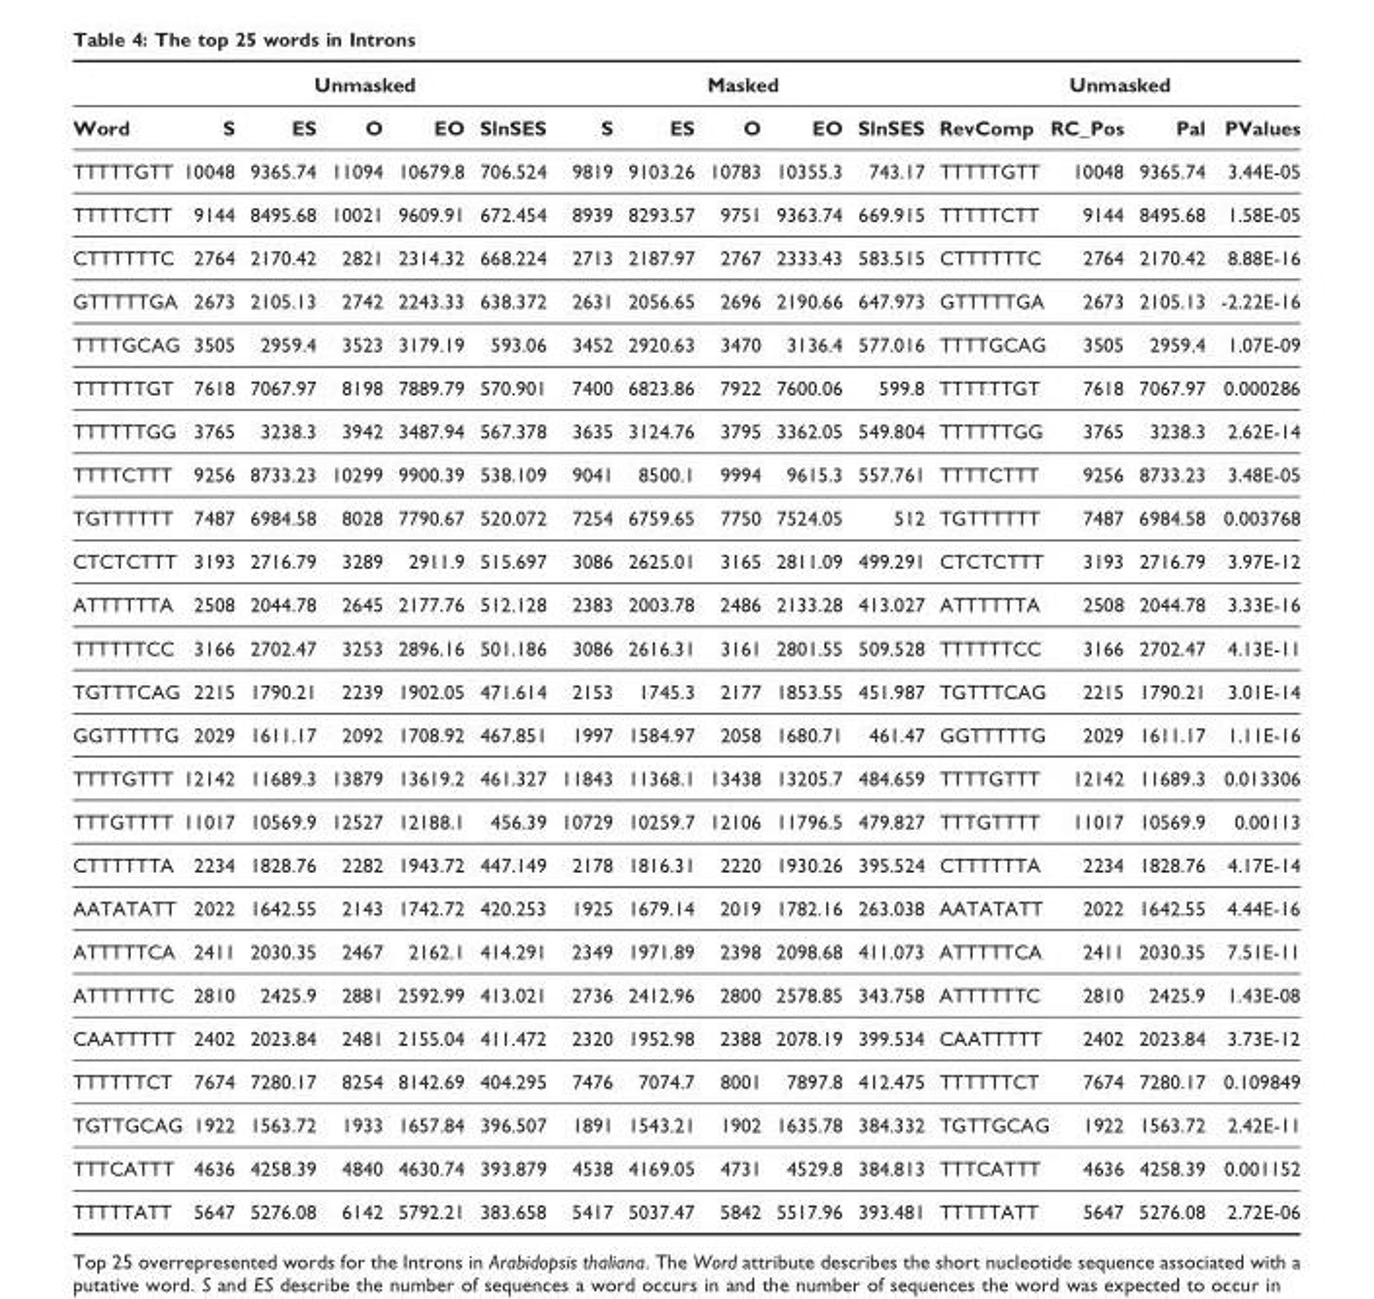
<table><thead><tr><td rowspan="2">Word</td><td colspan="5">Unmasked</td><td colspan="5">Masked</td><td colspan="4">Unmasked</td></tr><tr><td>S</td><td>ES</td><td>O</td><td>EO</td><td>SlnSES</td><td>S</td><td>ES</td><td>O</td><td>EO</td><td>SlnSES</td><td>RevComp</td><td>RC_Pos</td><td>Pal</td><td>PValues</td></tr></thead><tbody><tr><td>TTTTTGTT</td><td>10048</td><td>9365.74</td><td>11094</td><td>10679.8</td><td>706.524</td><td>9819</td><td>9103.26</td><td>10783</td><td>10355.3</td><td>743.17</td><td>TTTTTGTT</td><td>10048</td><td>9365.74</td><td>3.44E-05</td></tr><tr><td>TTTTTCTT</td><td>9144</td><td>8495.68</td><td>10021</td><td>9609.91</td><td>672.454</td><td>8939</td><td>8293.57</td><td>9751</td><td>9363.74</td><td>669.915</td><td>TTTTTCTT</td><td>9144</td><td>8495.68</td><td>1.58E-05</td></tr><tr><td>CTTTTTTC</td><td>2764</td><td>2170.42</td><td>2821</td><td>2314.32</td><td>668.224</td><td>2713</td><td>2187.97</td><td>2767</td><td>2333.43</td><td>583.515</td><td>CTTTTTTC</td><td>2764</td><td>2170.42</td><td>8.88E-16</td></tr><tr><td>GTTTTTGA</td><td>2673</td><td>2105.13</td><td>2742</td><td>2243.33</td><td>638.372</td><td>2631</td><td>2056.65</td><td>2696</td><td>2190.66</td><td>647.973</td><td>GTTTTTGA</td><td>2673</td><td>2105.13</td><td>-2.22E-16</td></tr><tr><td>TTTTGCAG</td><td>3505</td><td>2959.4</td><td>3523</td><td>3179.19</td><td>593.06</td><td>3452</td><td>2920.63</td><td>3470</td><td>3136.4</td><td>577.016</td><td>TTTTGCAG</td><td>3505</td><td>2959.4</td><td>1.07E-09</td></tr><tr><td>TTTTTTGT</td><td>7618</td><td>7067.97</td><td>8198</td><td>7889.79</td><td>570.901</td><td>7400</td><td>6823.86</td><td>7922</td><td>7600.06</td><td>599.8</td><td>TTTTTTGT</td><td>7618</td><td>7067.97</td><td>0.000286</td></tr><tr><td>TTTTTTGG</td><td>3765</td><td>3238.3</td><td>3942</td><td>3487.94</td><td>567.378</td><td>3635</td><td>3124.76</td><td>3795</td><td>3362.05</td><td>549.804</td><td>TTTTTTGG</td><td>3765</td><td>3238.3</td><td>2.62E-14</td></tr><tr><td>TTTTCTTT</td><td>9256</td><td>8733.23</td><td>10299</td><td>9900.39</td><td>538.109</td><td>9041</td><td>8500.1</td><td>9994</td><td>9615.3</td><td>557.761</td><td>TTTTCTTT</td><td>9256</td><td>8733.23</td><td>3.48E-05</td></tr><tr><td>TGTTTTTT</td><td>7487</td><td>6984.58</td><td>8028</td><td>7790.67</td><td>520.072</td><td>7254</td><td>6759.65</td><td>7750</td><td>7524.05</td><td>512</td><td>TGTTTTTT</td><td>7487</td><td>6984.58</td><td>0.003768</td></tr><tr><td>CTCTCTTT</td><td>3193</td><td>2716.79</td><td>3289</td><td>2911.9</td><td>515.697</td><td>3086</td><td>2625.01</td><td>3165</td><td>2811.09</td><td>499.291</td><td>CTCTCTTT</td><td>3193</td><td>2716.79</td><td>3.97E-12</td></tr><tr><td>ATTTTTTA</td><td>2508</td><td>2044.78</td><td>2645</td><td>2177.76</td><td>512.128</td><td>2383</td><td>2003.78</td><td>2486</td><td>2133.28</td><td>413.027</td><td>ATTTTTTA</td><td>2508</td><td>2044.78</td><td>3.33E-16</td></tr><tr><td>TTTTTTCC</td><td>3166</td><td>2702.47</td><td>3253</td><td>2896.16</td><td>501.186</td><td>3086</td><td>2616.31</td><td>3161</td><td>2801.55</td><td>509.528</td><td>TTTTTTCC</td><td>3166</td><td>2702.47</td><td>4.13E-11</td></tr><tr><td>TGTTTCAG</td><td>2215</td><td>1790.21</td><td>2239</td><td>1902.05</td><td>471.614</td><td>2153</td><td>1745.3</td><td>2177</td><td>1853.55</td><td>451.987</td><td>TGTTTCAG</td><td>2215</td><td>1790.21</td><td>3.01E-14</td></tr><tr><td>GGTTTTTG</td><td>2029</td><td>1611.17</td><td>2092</td><td>1708.92</td><td>467.851</td><td>1997</td><td>1584.97</td><td>2058</td><td>1680.71</td><td>461.47</td><td>GGTTTTTG</td><td>2029</td><td>1611.17</td><td>1.11E-16</td></tr><tr><td>TTTTGTTT</td><td>12142</td><td>11689.3</td><td>13879</td><td>13619.2</td><td>461.327</td><td>11843</td><td>11368.1</td><td>13438</td><td>13205.7</td><td>484.659</td><td>TTTTGTTT</td><td>12142</td><td>11689.3</td><td>0.013306</td></tr><tr><td>TTTGTTTT</td><td>11017</td><td>10569.9</td><td>12527</td><td>12188.1</td><td>456.39</td><td>10729</td><td>10259.7</td><td>12106</td><td>11796.5</td><td>479.827</td><td>TTTGTTTT</td><td>11017</td><td>10569.9</td><td>0.00113</td></tr><tr><td>CTTTTTTA</td><td>2234</td><td>1828.76</td><td>2282</td><td>1943.72</td><td>447.149</td><td>2178</td><td>1816.31</td><td>2220</td><td>1930.26</td><td>395.524</td><td>CTTTTTTA</td><td>2234</td><td>1828.76</td><td>4.17E-14</td></tr><tr><td>AATATATT</td><td>2022</td><td>1642.55</td><td>2143</td><td>1742.72</td><td>420.253</td><td>1925</td><td>1679.14</td><td>2019</td><td>1782.16</td><td>263.038</td><td>AATATATT</td><td>2022</td><td>1642.55</td><td>4.44E-16</td></tr><tr><td>ATTTTTCA</td><td>2411</td><td>2030.35</td><td>2467</td><td>2162.1</td><td>414.291</td><td>2349</td><td>1971.89</td><td>2398</td><td>2098.68</td><td>411.073</td><td>ATTTTTCA</td><td>2411</td><td>2030.35</td><td>7.51E-11</td></tr><tr><td>ATTTTTTC</td><td>2810</td><td>2425.9</td><td>2881</td><td>2592.99</td><td>413.021</td><td>2736</td><td>2412.96</td><td>2800</td><td>2578.85</td><td>343.758</td><td>ATTTTTTC</td><td>2810</td><td>2425.9</td><td>1.43E-08</td></tr><tr><td>CAATTTTT</td><td>2402</td><td>2023.84</td><td>2481</td><td>2155.04</td><td>411.472</td><td>2320</td><td>1952.98</td><td>2388</td><td>2078.19</td><td>399.534</td><td>CAATTTTT</td><td>2402</td><td>2023.84</td><td>3.73E-12</td></tr><tr><td>TTTTTTCT</td><td>7674</td><td>7280.17</td><td>8254</td><td>8142.69</td><td>404.295</td><td>7476</td><td>7074.7</td><td>8001</td><td>7897.8</td><td>412.475</td><td>TTTTTTCT</td><td>7674</td><td>7280.17</td><td>0.109849</td></tr><tr><td>TGTTGCAG</td><td>1922</td><td>1563.72</td><td>1933</td><td>1657.84</td><td>396.507</td><td>1891</td><td>1543.21</td><td>1902</td><td>1635.78</td><td>384.332</td><td>TGTTGCAG</td><td>1922</td><td>1563.72</td><td>2.42E-11</td></tr><tr><td>TTTCATTT</td><td>4636</td><td>4258.39</td><td>4840</td><td>4630.74</td><td>393.879</td><td>4538</td><td>4169.05</td><td>4731</td><td>4529.8</td><td>384.813</td><td>TTTCATTT</td><td>4636</td><td>4258.39</td><td>0.001152</td></tr><tr><td>TTTTTATT</td><td>5647</td><td>5276.08</td><td>6142</td><td>5792.21</td><td>383.658</td><td>5417</td><td>5037.47</td><td>5842</td><td>5517.96</td><td>393.481</td><td>TTTTTATT</td><td>5647</td><td>5276.08</td><td>2.72E-06</td></tr></tbody></table>